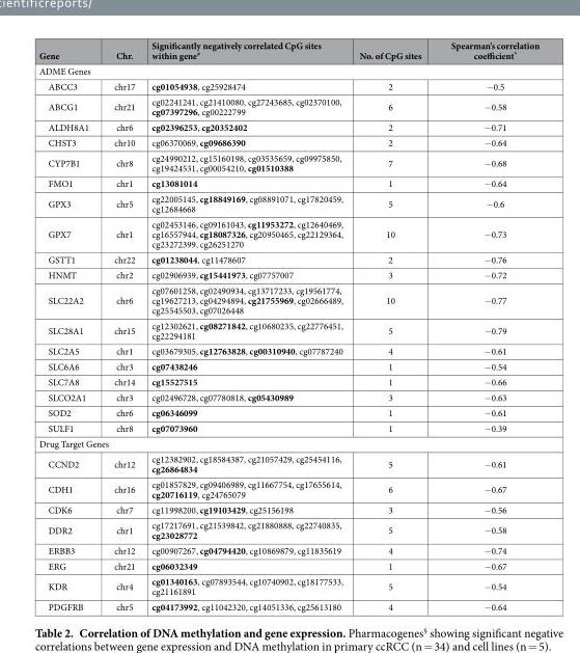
<table><thead><tr><td>Gene</td><td>Chr.</td><td>Significantly negatively correlated CpG sites within gene<sup>#</sup></td><td>No. of CpG sites</td><td>Spearman’s correlation coefficient*</td></tr></thead><tbody><tr><td colspan="5">ADME Genes</td></tr><tr><td>ABCC3</td><td>chr17</td><td>cg01054938, cg25928474</td><td>2</td><td>− 0.5</td></tr><tr><td>ABCG1</td><td>chr21</td><td>cg02241241, cg21410080, cg27243685, cg02370100, cg07397296, cg00222799</td><td>6</td><td>− 0.58</td></tr><tr><td>ALDH8A1</td><td>chr6</td><td>cg02396253, cg20352402</td><td>2</td><td>− 0.71</td></tr><tr><td>CHST3</td><td>chr10</td><td>cg06370069, cg09686390</td><td>2</td><td>− 0.64</td></tr><tr><td>CYP7B1</td><td>chr8</td><td>cg24990212, cg15160198, cg03535659, cg09975850, cg19424531, cg00054210, cg01510388</td><td>7</td><td>− 0.68</td></tr><tr><td>FMO1</td><td>chr1</td><td>cg13081014</td><td>1</td><td>− 0.64</td></tr><tr><td>GPX3</td><td>chr5</td><td>cg22005145, cg18849169, cg08891071, cg17820459, cg12684668</td><td>5</td><td>− 0.6</td></tr><tr><td>GPX7</td><td>chr1</td><td>cg02453146, cg09161043, cg11953272, cg12640469, cg16557944, cg18087326, cg20950465, cg22129364, cg23272399, cg26251270</td><td>10</td><td>− 0.73</td></tr><tr><td>GSTT1</td><td>chr22</td><td>cg01238044, cg11478607</td><td>2</td><td>− 0.76</td></tr><tr><td>HNMT</td><td>chr2</td><td>cg02906939, cg15441973, cg07757007</td><td>3</td><td>− 0.72</td></tr><tr><td>SLC22A2</td><td>chr6</td><td>cg07601258, cg02490934, cg13717233, cg19561774, cg19627213, cg04294894, cg21755969, cg02666489, cg25545503, cg07026448</td><td>10</td><td>− 0.77</td></tr><tr><td>SLC28A1</td><td>chr15</td><td>cg12302621, cg08271842, cg10680235, cg22776451, cg22294181</td><td>5</td><td>− 0.79</td></tr><tr><td>SLC2A5</td><td>chr1</td><td>cg03679305, cg12763828, cg00310940, cg07787240</td><td>4</td><td>− 0.61</td></tr><tr><td>SLC6A6</td><td>chr3</td><td>cg07438246</td><td>1</td><td>− 0.54</td></tr><tr><td>SLC7A8</td><td>chr14</td><td>cg15527515</td><td>1</td><td>− 0.66</td></tr><tr><td>SLCO2A1</td><td>chr3</td><td>cg02496728, cg07780818, cg05430989</td><td>3</td><td>− 0.63</td></tr><tr><td>SOD2</td><td>chr6</td><td>cg06346099</td><td>1</td><td>− 0.61</td></tr><tr><td>SULF1</td><td>chr8</td><td>cg07073960</td><td>1</td><td>− 0.39</td></tr><tr><td colspan="5">Drug Target Genes</td></tr><tr><td>CCND2</td><td>chr12</td><td>cg12382902, cg18584387, cg21057429, cg25454116, cg26864834</td><td>5</td><td>− 0.61</td></tr><tr><td>CDH1</td><td>chr16</td><td>cg01857829, cg09406989, cg11667754, cg17655614, cg20716119, cg24765079</td><td>6</td><td>− 0.67</td></tr><tr><td>CDK6</td><td>chr7</td><td>cg11998200, cg19103429, cg25156198</td><td>3</td><td>− 0.56</td></tr><tr><td>DDR2</td><td>chr1</td><td>cg17217691, cg21539842, cg21880888, cg22740835, cg23028772</td><td>5</td><td>− 0.58</td></tr><tr><td>ERBB3</td><td>chr12</td><td>cg00907267, cg04794420, cg10869879, cg11835619</td><td>4</td><td>− 0.74</td></tr><tr><td>ERG</td><td>chr21</td><td>cg06032349</td><td>1</td><td>− 0.67</td></tr><tr><td>KDR</td><td>chr4</td><td>cg01340163, cg07893544, cg10740902, cg18177533, cg21161891</td><td>5</td><td>− 0.54</td></tr><tr><td>PDGFRB</td><td>chr5</td><td>cg04173992, cg11042320, cg14051336, cg25613180</td><td>4</td><td>− 0.64</td></tr></tbody></table>